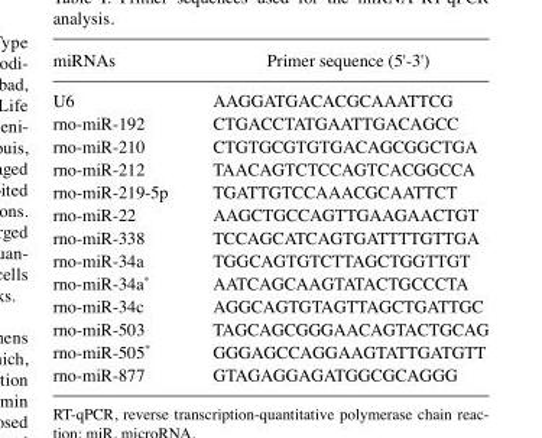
<table><thead><tr><td>miRNAs</td><td>Primer sequence (5&#x27;-3&#x27;)</td></tr></thead><tbody><tr><td>U6</td><td>AAGGATGACACGCAAATTCG</td></tr><tr><td>rno-miR-192</td><td>CTGACCTATGAATTGACAGCC</td></tr><tr><td>rno-miR-210</td><td>CTGTGCGTGTGACAGCGGCTGA</td></tr><tr><td>rno-miR-212</td><td>TAACAGTCTCCAGTCACGGCCA</td></tr><tr><td>rno-miR-219-5p</td><td>TGATTGTCCAAACGCAATTCT</td></tr><tr><td>rno-miR-22</td><td>AAGCTGCCAGTTGAAGAACTGT</td></tr><tr><td>rno-miR-338</td><td>TCCAGCATCAGTGATTTTGTTGA</td></tr><tr><td>rno-miR-34a</td><td>TGGCAGTGTCTTAGCTGGTTGT</td></tr><tr><td>rno-miR-34a*</td><td>AATCAGCAAGTATACTGCCCTA</td></tr><tr><td>rno-miR-34c</td><td>AGGCAGTGTAGTTAGCTGATTGC</td></tr><tr><td>rno-miR-503</td><td>TAGCAGCGGGAACAGTACTGCAG</td></tr><tr><td>rno-miR-505*</td><td>GGGAGCCAGGAAGTATTGATGTT</td></tr><tr><td>rno-miR-877</td><td>GTAGAGGAGATGGCGCAGGG</td></tr></tbody></table>